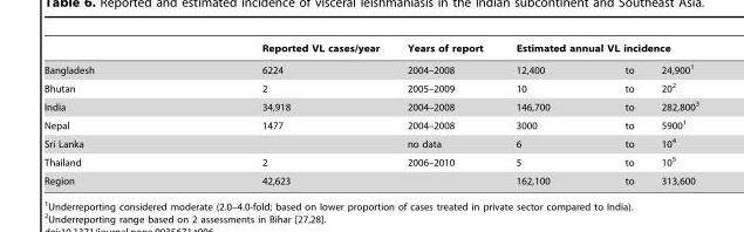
<table><thead><tr><td rowspan="2">Bangladesh</td><td rowspan="2">Reported VL cases/year 6224</td><td rowspan="2">Years of report 2004–2008</td><td colspan="3">Estimated annual VL incidence</td></tr><tr><td>12,400</td><td>to</td><td>24,900<sup>1</sup></td></tr></thead><tbody><tr><td>Bhutan</td><td>2</td><td>2005–2009</td><td>10</td><td>to</td><td>20<sup>2</sup></td></tr><tr><td>India</td><td>34,918</td><td>2004–2008</td><td>146,700</td><td>to</td><td>282,800<sup>3</sup></td></tr><tr><td>Nepal</td><td>1477</td><td>2004–2008</td><td>3000</td><td>to</td><td>5900<sup>1</sup></td></tr><tr><td>Sri Lanka</td><td></td><td>no data</td><td>6</td><td>to</td><td>10<sup>4</sup></td></tr><tr><td>Thailand</td><td>2</td><td>2006–2010</td><td>5</td><td>to</td><td>10<sup>5</sup></td></tr><tr><td>Region</td><td>42,623</td><td></td><td>162,100</td><td>to</td><td>313,600</td></tr></tbody></table>